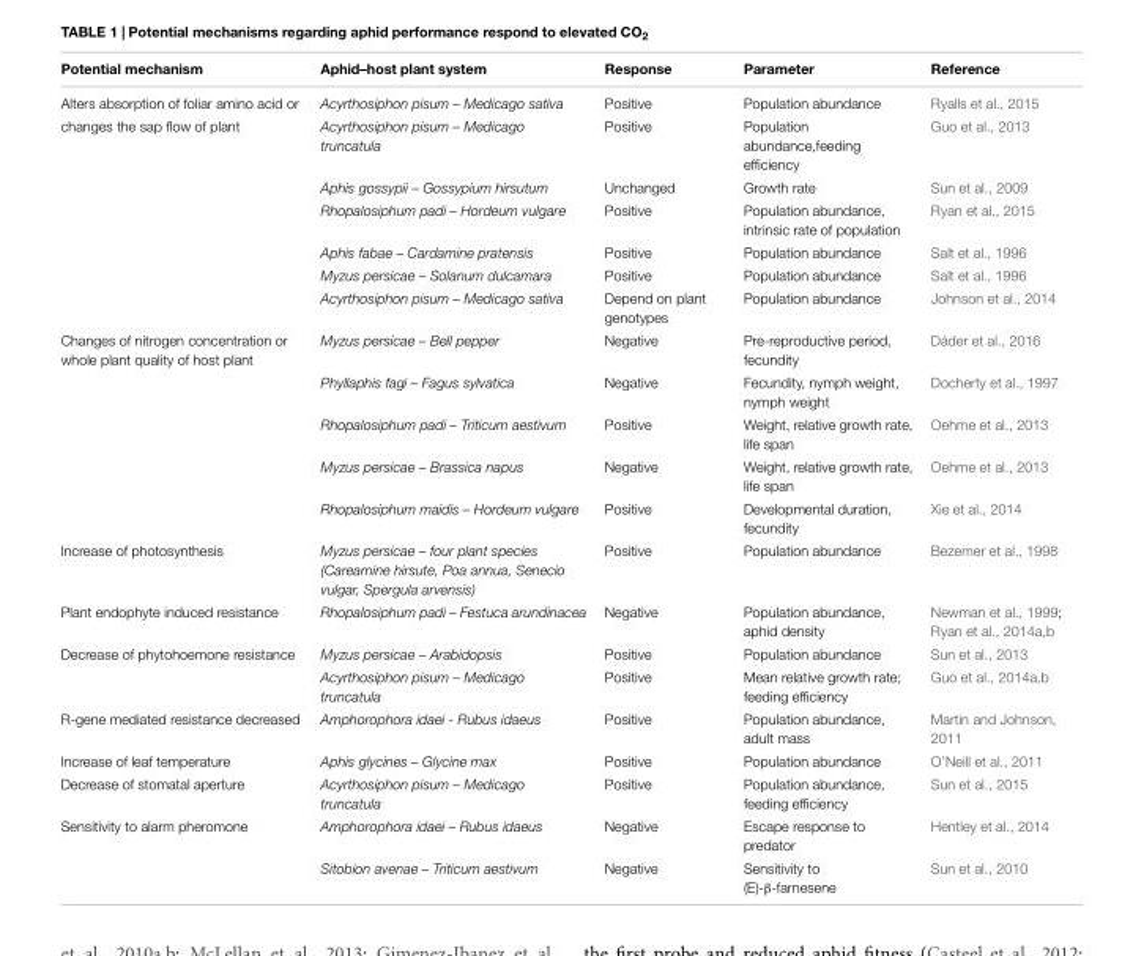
<table><thead><tr><td>Potential mechanism</td><td>Aphid–host plant system</td><td>Response</td><td>Parameter</td><td>Reference</td></tr></thead><tbody><tr><td>Alters absorption of foliar amino acid or</td><td>Acyrthosiphon pisum – Medicago sativa</td><td>Positive</td><td>Population abundance</td><td>Ryalls et al., 2015</td></tr><tr><td rowspan="6">changes the sap flow of plant</td><td>Acyrthosiphon pisum – Medicago truncatula</td><td>Positive</td><td>Population abundance,feeding efficiency</td><td>Guo et al., 2013</td></tr><tr><td>Aphis gossypii – Gossypium hirsutum</td><td>Unchanged</td><td>Growth rate</td><td>Sun et al., 2009</td></tr><tr><td>Rhopalosiphum padi – Hordeum vulgare</td><td>Positive</td><td>Population abundance, intrinsic rate of population</td><td>Ryan et al., 2015</td></tr><tr><td>Aphis fabae – Cardamine pratensis</td><td>Positive</td><td>Population abundance</td><td>Salt et al., 1996</td></tr><tr><td>Myzus persicae – Solanum dulcamara</td><td>Positive</td><td>Population abundance</td><td>Salt et al., 1996</td></tr><tr><td>Acyrthosiphon pisum – Medicago sativa</td><td>Depend on plant genotypes</td><td>Population abundance</td><td>Johnson et al., 2014</td></tr><tr><td rowspan="5">Changes of nitrogen concentration or whole plant quality of host plant</td><td>Myzus persicae – Bell pepper</td><td>Negative</td><td>Pre-reproductive period, fecundity</td><td>Dáder et al., 2016</td></tr><tr><td>Phyllaphis fagi – Fagus sylvatica</td><td>Negative</td><td>Fecundity, nymph weight, nymph weight</td><td>Docherty et al., 1997</td></tr><tr><td>Rhopalosiphum padi – Triticum aestivum</td><td>Positive</td><td>Weight, relative growth rate, life span</td><td>Oehme et al., 2013</td></tr><tr><td>Myzus persicae – Brassica napus</td><td>Negative</td><td>Weight, relative growth rate, life span</td><td>Oehme et al., 2013</td></tr><tr><td>Rhopalosiphum maidis – Hordeum vulgare</td><td>Positive</td><td>Developmental duration, fecundity</td><td>Xie et al., 2014</td></tr><tr><td>Increase of photosynthesis</td><td>Myzus persicae – four plant species (Careamine hirsute, Poa annua, Senecio vulgar, Spergula arvensis)</td><td>Positive</td><td>Population abundance</td><td>Bezemer et al., 1998</td></tr><tr><td>Plant endophyte induced resistance</td><td>Rhopalosiphum padi – Festuca arundinacea</td><td>Negative</td><td>Population abundance, aphid density</td><td>Newman et al., 1999; Ryan et al., 2014a,b</td></tr><tr><td rowspan="2">Decrease of phytohoemone resistance</td><td>Myzus persicae – Arabidopsis</td><td>Positive</td><td>Population abundance</td><td>Sun et al., 2013</td></tr><tr><td>Acyrthosiphon pisum – Medicago truncatula</td><td>Positive</td><td>Mean relative growth rate; feeding efficiency</td><td>Guo et al., 2014a,b</td></tr><tr><td>R-gene mediated resistance decreased</td><td>Amphorophora idaei - Rubus idaeus</td><td>Positive</td><td>Population abundance, adult mass</td><td>Martin and Johnson, 2011</td></tr><tr><td>Increase of leaf temperature</td><td>Aphis glycines – Glycine max</td><td>Positive</td><td>Population abundance</td><td>O’Neill et al., 2011</td></tr><tr><td>Decrease of stomatal aperture</td><td>Acyrthosiphon pisum – Medicago truncatula</td><td>Positive</td><td>Population abundance, feeding efficiency</td><td>Sun et al., 2015</td></tr><tr><td rowspan="2">Sensitivity to alarm pheromone</td><td>Amphorophora idaei – Rubus idaeus</td><td>Negative</td><td>Escape response to predator</td><td>Hentley et al., 2014</td></tr><tr><td>Sitobion avenae – Triticum aestivum</td><td>Negative</td><td>Sensitivity to (E)-β-farnesene</td><td>Sun et al., 2010</td></tr></tbody></table>